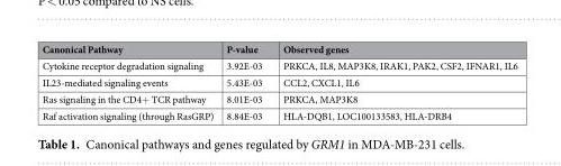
<table><thead><tr><td>Canonical Pathway</td><td>P-value</td><td>Observed genes</td></tr></thead><tbody><tr><td>Cytokine receptor degradation signaling</td><td>3.92E-03</td><td>PRKCA, IL8, MAP3K8, IRAK1, PAK2, CSF2, IFNAR1, IL6</td></tr><tr><td>IL23-mediated signaling events</td><td>5.43E-03</td><td>CCL2, CXCL1, IL6</td></tr><tr><td>Ras signaling in the CD4+ TCR pathway</td><td>8.01E-03</td><td>PRKCA, MAP3K8</td></tr><tr><td>Raf activation signaling (through RasGRP)</td><td>8.84E-03</td><td>HLA-DQB1, LOC100133583, HLA-DRB4</td></tr></tbody></table>